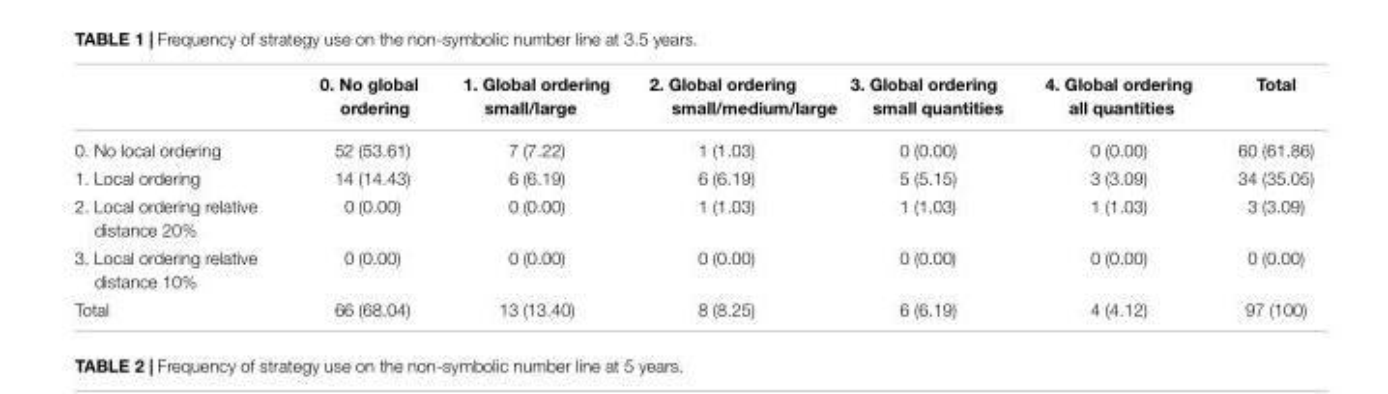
<table><thead><tr><td></td><td>0. No global ordering</td><td>1. Global ordering small/large</td><td>2. Global ordering small/medium/large</td><td>3. Global ordering small quantities</td><td>4. Global ordering all quantities</td><td>Total</td></tr></thead><tbody><tr><td>0. No local ordering</td><td>52 (53.61)</td><td>7 (7.22)</td><td>1 (1.03)</td><td>0 (0.00)</td><td>0 (0.00)</td><td>60 (61.86)</td></tr><tr><td>1. Local ordering</td><td>14 (14.43)</td><td>6 (6.19)</td><td>6 (6.19)</td><td>5 (5.15)</td><td>3 (3.09)</td><td>34 (35.05)</td></tr><tr><td>2. Local ordering relative distance 20%</td><td>0 (0.00)</td><td>0 (0.00)</td><td>1 (1.03)</td><td>1 (1.03)</td><td>1 (1.03)</td><td>3 (3.09)</td></tr><tr><td>3. Local ordering relative distance 10%</td><td>0 (0.00)</td><td>0 (0.00)</td><td>0 (0.00)</td><td>0 (0.00)</td><td>0 (0.00)</td><td>0 (0.00)</td></tr><tr><td>Total</td><td>66 (68.04)</td><td>13 (13.40)</td><td>8 (8.25)</td><td>6 (6.19)</td><td>4 (4.12)</td><td>97 (100)</td></tr></tbody></table>